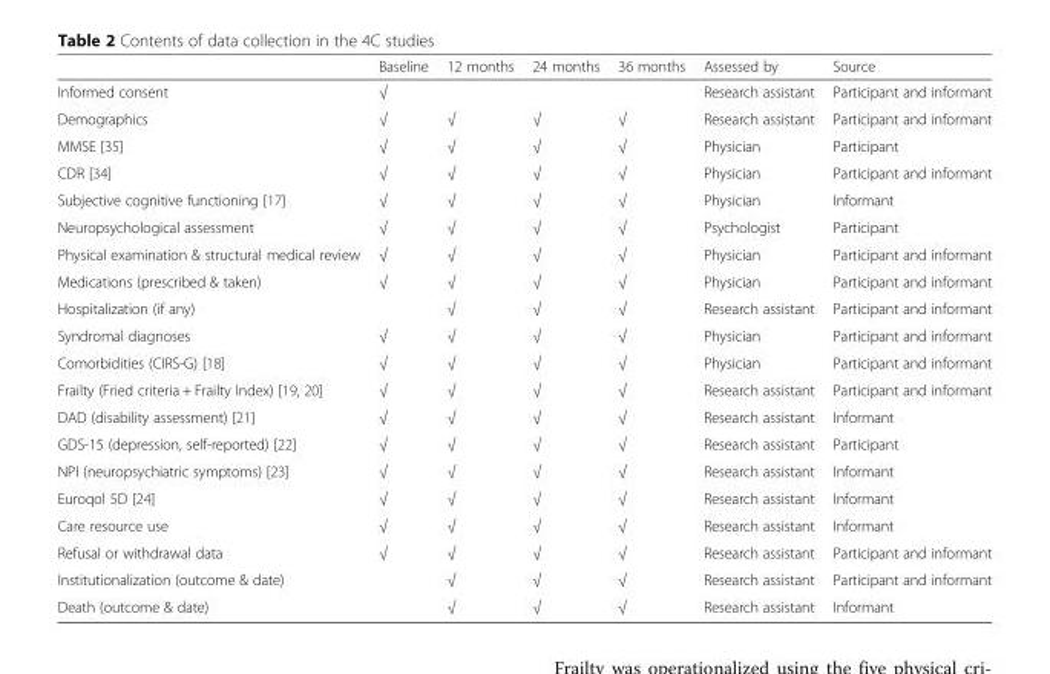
<table><thead><tr><td></td><td>Baseline</td><td>12 months</td><td>24 months</td><td>36 months</td><td>Assessed by</td><td>Source</td></tr></thead><tbody><tr><td>Informed consent</td><td>√</td><td></td><td></td><td></td><td>Research assistant</td><td>Participant and informant</td></tr><tr><td>Demographics</td><td>√</td><td>√</td><td>√</td><td>√</td><td>Research assistant</td><td>Participant and informant</td></tr><tr><td>MMSE [35]</td><td>√</td><td>√</td><td>√</td><td>√</td><td>Physician</td><td>Participant</td></tr><tr><td>CDR [34]</td><td>√</td><td>√</td><td>√</td><td>√</td><td>Physician</td><td>Participant and informant</td></tr><tr><td>Subjective cognitive functioning [17]</td><td>√</td><td>√</td><td>√</td><td>√</td><td>Physician</td><td>Informant</td></tr><tr><td>Neuropsychological assessment</td><td>√</td><td>√</td><td>√</td><td>√</td><td>Psychologist</td><td>Participant</td></tr><tr><td>Physical examination &amp; structural medical review</td><td>√</td><td>√</td><td>√</td><td>√</td><td>Physician</td><td>Participant and informant</td></tr><tr><td>Medications (prescribed &amp; taken)</td><td>√</td><td>√</td><td>√</td><td>√</td><td>Physician</td><td>Participant and informant</td></tr><tr><td>Hospitalization (if any)</td><td></td><td>√</td><td>√</td><td>√</td><td>Research assistant</td><td>Participant and informant</td></tr><tr><td>Syndromal diagnoses</td><td>√</td><td>√</td><td>√</td><td>√</td><td>Physician</td><td>Participant and informant</td></tr><tr><td>Comorbidities (CIRS-G) [18]</td><td>√</td><td>√</td><td>√</td><td>√</td><td>Physician</td><td>Participant and informant</td></tr><tr><td>Frailty (Fried criteria + Frailty Index) [19, 20]</td><td>√</td><td>√</td><td>√</td><td>√</td><td>Research assistant</td><td>Participant and informant</td></tr><tr><td>DAD (disability assessment) [21]</td><td>√</td><td>√</td><td>√</td><td>√</td><td>Research assistant</td><td>Informant</td></tr><tr><td>GDS-15 (depression, self-reported) [22]</td><td>√</td><td>√</td><td>√</td><td>√</td><td>Research assistant</td><td>Participant</td></tr><tr><td>NPI (neuropsychiatric symptoms) [23]</td><td>√</td><td>√</td><td>√</td><td>√</td><td>Research assistant</td><td>Informant</td></tr><tr><td>Euroqol 5D [24]</td><td>√</td><td>√</td><td>√</td><td>√</td><td>Research assistant</td><td>Informant</td></tr><tr><td>Care resource use</td><td>√</td><td>√</td><td>√</td><td>√</td><td>Research assistant</td><td>Informant</td></tr><tr><td>Refusal or withdrawal data</td><td>√</td><td>√</td><td>√</td><td>√</td><td>Research assistant</td><td>Participant and informant</td></tr><tr><td>Institutionalization (outcome &amp; date)</td><td></td><td>√</td><td>√</td><td>√</td><td>Research assistant</td><td>Participant and informant</td></tr><tr><td>Death (outcome &amp; date)</td><td></td><td>√</td><td>√</td><td>√</td><td>Research assistant</td><td>Informant</td></tr></tbody></table>